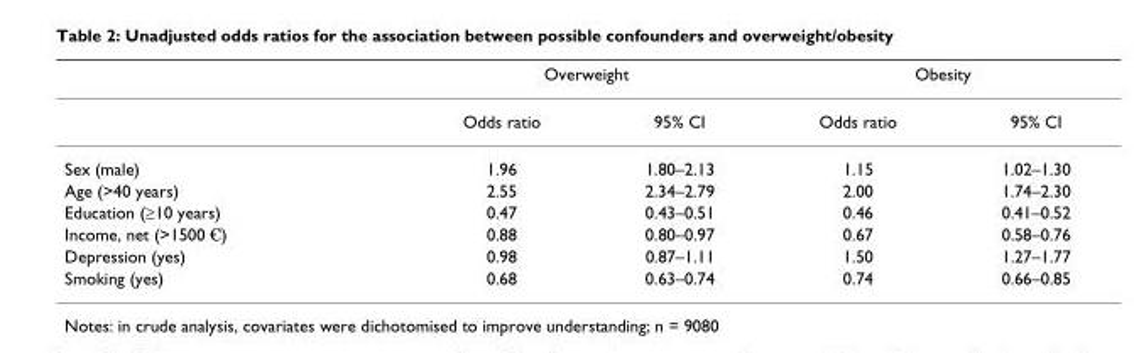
<table><thead><tr><td rowspan="2"></td><td colspan="2">Overweight</td><td colspan="2">Obesity</td></tr><tr><td>Odds ratio</td><td>95% CI</td><td>Odds ratio</td><td>95% CI</td></tr></thead><tbody><tr><td>Sex (male)</td><td>1.96</td><td>1.80–2.13</td><td>1.15</td><td>1.02–1.30</td></tr><tr><td>Age (&gt;40 years)</td><td>2.55</td><td>2.34–2.79</td><td>2.00</td><td>1.74–2.30</td></tr><tr><td>Education (≥10 years)</td><td>0.47</td><td>0.43–0.51</td><td>0.46</td><td>0.41–0.52</td></tr><tr><td>Income, net (&gt;1500 €)</td><td>0.88</td><td>0.80–0.97</td><td>0.67</td><td>0.58–0.76</td></tr><tr><td>Depression (yes)</td><td>0.98</td><td>0.87–1.11</td><td>1.50</td><td>1.27–1.77</td></tr><tr><td>Smoking (yes)</td><td>0.68</td><td>0.63–0.74</td><td>0.74</td><td>0.66–0.85</td></tr></tbody></table>